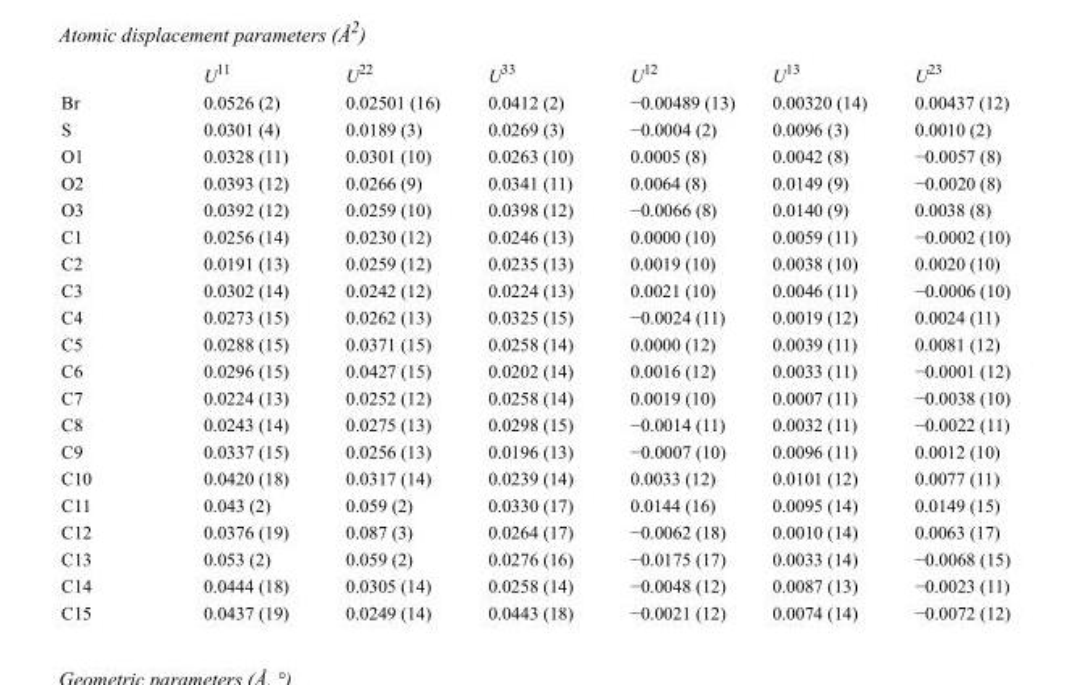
<table><thead><tr><td></td><td>U<sup>11</sup></td><td>U<sup>22</sup></td><td>U<sup>33</sup></td><td>U<sup>12</sup></td><td>U<sup>13</sup></td><td>U<sup>23</sup></td></tr></thead><tbody><tr><td>Br</td><td>0.0526 (2)</td><td>0.02501 (16)</td><td>0.0412 (2)</td><td>−0.00489 (13)</td><td>0.00320 (14)</td><td>0.00437 (12)</td></tr><tr><td>S</td><td>0.0301 (4)</td><td>0.0189 (3)</td><td>0.0269 (3)</td><td>−0.0004 (2)</td><td>0.0096 (3)</td><td>0.0010 (2)</td></tr><tr><td>O1</td><td>0.0328 (11)</td><td>0.0301 (10)</td><td>0.0263 (10)</td><td>0.0005 (8)</td><td>0.0042 (8)</td><td>−0.0057 (8)</td></tr><tr><td>O2</td><td>0.0393 (12)</td><td>0.0266 (9)</td><td>0.0341 (11)</td><td>0.0064 (8)</td><td>0.0149 (9)</td><td>−0.0020 (8)</td></tr><tr><td>O3</td><td>0.0392 (12)</td><td>0.0259 (10)</td><td>0.0398 (12)</td><td>−0.0066 (8)</td><td>0.0140 (9)</td><td>0.0038 (8)</td></tr><tr><td>C1</td><td>0.0256 (14)</td><td>0.0230 (12)</td><td>0.0246 (13)</td><td>0.0000 (10)</td><td>0.0059 (11)</td><td>−0.0002 (10)</td></tr><tr><td>C2</td><td>0.0191 (13)</td><td>0.0259 (12)</td><td>0.0235 (13)</td><td>0.0019 (10)</td><td>0.0038 (10)</td><td>0.0020 (10)</td></tr><tr><td>C3</td><td>0.0302 (14)</td><td>0.0242 (12)</td><td>0.0224 (13)</td><td>0.0021 (10)</td><td>0.0046 (11)</td><td>−0.0006 (10)</td></tr><tr><td>C4</td><td>0.0273 (15)</td><td>0.0262 (13)</td><td>0.0325 (15)</td><td>−0.0024 (11)</td><td>0.0019 (12)</td><td>0.0024 (11)</td></tr><tr><td>C5</td><td>0.0288 (15)</td><td>0.0371 (15)</td><td>0.0258 (14)</td><td>0.0000 (12)</td><td>0.0039 (11)</td><td>0.0081 (12)</td></tr><tr><td>C6</td><td>0.0296 (15)</td><td>0.0427 (15)</td><td>0.0202 (14)</td><td>0.0016 (12)</td><td>0.0033 (11)</td><td>−0.0001 (12)</td></tr><tr><td>C7</td><td>0.0224 (13)</td><td>0.0252 (12)</td><td>0.0258 (14)</td><td>0.0019 (10)</td><td>0.0007 (11)</td><td>−0.0038 (10)</td></tr><tr><td>C8</td><td>0.0243 (14)</td><td>0.0275 (13)</td><td>0.0298 (15)</td><td>−0.0014 (11)</td><td>0.0032 (11)</td><td>−0.0022 (11)</td></tr><tr><td>C9</td><td>0.0337 (15)</td><td>0.0256 (13)</td><td>0.0196 (13)</td><td>−0.0007 (10)</td><td>0.0096 (11)</td><td>0.0012 (10)</td></tr><tr><td>C10</td><td>0.0420 (18)</td><td>0.0317 (14)</td><td>0.0239 (14)</td><td>0.0033 (12)</td><td>0.0101 (12)</td><td>0.0077 (11)</td></tr><tr><td>C11</td><td>0.043 (2)</td><td>0.059 (2)</td><td>0.0330 (17)</td><td>0.0144 (16)</td><td>0.0095 (14)</td><td>0.0149 (15)</td></tr><tr><td>C12</td><td>0.0376 (19)</td><td>0.087 (3)</td><td>0.0264 (17)</td><td>−0.0062 (18)</td><td>0.0010 (14)</td><td>0.0063 (17)</td></tr><tr><td>C13</td><td>0.053 (2)</td><td>0.059 (2)</td><td>0.0276 (16)</td><td>−0.0175 (17)</td><td>0.0033 (14)</td><td>−0.0068 (15)</td></tr><tr><td>C14</td><td>0.0444 (18)</td><td>0.0305 (14)</td><td>0.0258 (14)</td><td>−0.0048 (12)</td><td>0.0087 (13)</td><td>−0.0023 (11)</td></tr><tr><td>C15</td><td>0.0437 (19)</td><td>0.0249 (14)</td><td>0.0443 (18)</td><td>−0.0021 (12)</td><td>0.0074 (14)</td><td>−0.0072 (12)</td></tr></tbody></table>